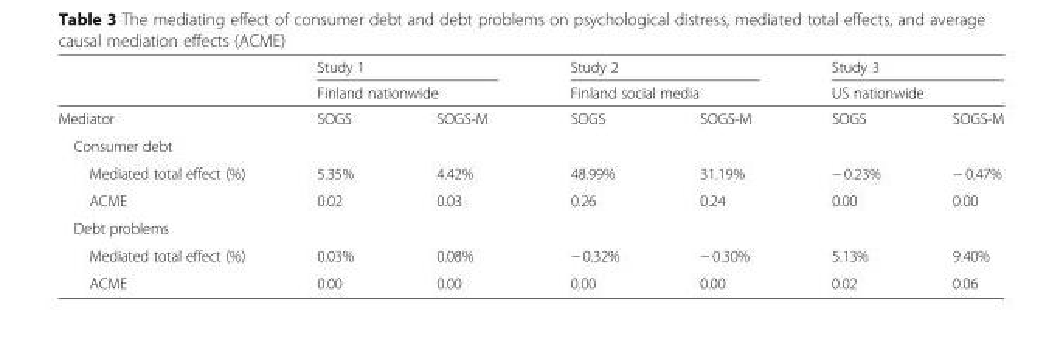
<table><thead><tr><td rowspan="3">Mediator</td><td rowspan="2" colspan="2">Study 1 Finland nationwide</td><td rowspan="2" colspan="2">Study 2 Finland social media</td><td rowspan="2" colspan="2">Study 3 US nationwide</td></tr><tr></tr><tr><td>SOGS</td><td>SOGS-M</td><td>SOGS</td><td>SOGS-M</td><td>SOGS</td><td>SOGS-M</td></tr></thead><tbody><tr><td colspan="7">Consumer debt</td></tr><tr><td>Mediated total effect (%)</td><td>5.35%</td><td>4.42%</td><td>48.99%</td><td>31.19%</td><td>− 0.23%</td><td>− 0.47%</td></tr><tr><td>ACME</td><td>0.02</td><td>0.03</td><td>0.26</td><td>0.24</td><td>0.00</td><td>0.00</td></tr><tr><td colspan="7">Debt problems</td></tr><tr><td>Mediated total effect (%)</td><td>0.03%</td><td>0.08%</td><td>− 0.32%</td><td>− 0.30%</td><td>5.13%</td><td>9.40%</td></tr><tr><td>ACME</td><td>0.00</td><td>0.00</td><td>0.00</td><td>0.00</td><td>0.02</td><td>0.06</td></tr></tbody></table>